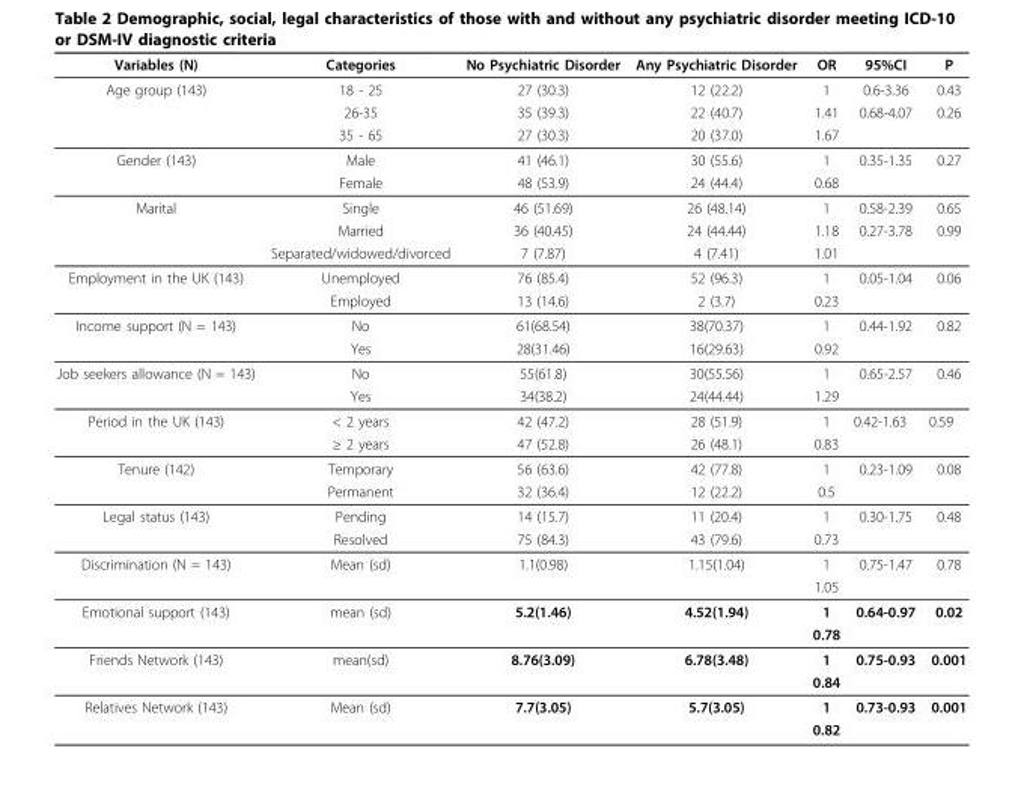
<table><thead><tr><td>Variables (N)</td><td>Categories</td><td>No Psychiatric Disorder</td><td>Any Psychiatric Disorder</td><td>OR</td><td>95%CI</td><td>P</td></tr></thead><tbody><tr><td rowspan="3">Age group (143)</td><td>18 - 25</td><td>27 (30.3)</td><td>12 (22.2)</td><td>1</td><td>0.6-3.36</td><td>0.43</td></tr><tr><td>26-35</td><td>35 (39.3)</td><td>22 (40.7)</td><td>1.41</td><td>0.68-4.07</td><td>0.26</td></tr><tr><td>35 - 65</td><td>27 (30.3)</td><td>20 (37.0)</td><td>1.67</td><td></td><td></td></tr><tr><td rowspan="2">Gender (143)</td><td>Male</td><td>41 (46.1)</td><td>30 (55.6)</td><td>1</td><td>0.35-1.35</td><td>0.27</td></tr><tr><td>Female</td><td>48 (53.9)</td><td>24 (44.4)</td><td>0.68</td><td></td><td></td></tr><tr><td rowspan="3">Marital</td><td>Single</td><td>46 (51.69)</td><td>26 (48.14)</td><td>1</td><td>0.58-2.39</td><td>0.65</td></tr><tr><td>Married</td><td>36 (40.45)</td><td>24 (44.44)</td><td>1.18</td><td>0.27-3.78</td><td>0.99</td></tr><tr><td>Separated/widowed/divorced</td><td>7 (7.87)</td><td>4 (7.41)</td><td>1.01</td><td></td><td></td></tr><tr><td rowspan="2">Employment in the UK (143)</td><td>Unemployed</td><td>76 (85.4)</td><td>52 (96.3)</td><td>1</td><td>0.05-1.04</td><td>0.06</td></tr><tr><td>Employed</td><td>13 (14.6)</td><td>2 (3.7)</td><td>0.23</td><td></td><td></td></tr><tr><td rowspan="2">Income support (N = 143)</td><td>No</td><td>61(68.54)</td><td>38(70.37)</td><td>1</td><td>0.44-1.92</td><td>0.82</td></tr><tr><td>Yes</td><td>28(31.46)</td><td>16(29.63)</td><td>0.92</td><td></td><td></td></tr><tr><td rowspan="2">Job seekers allowance (N = 143)</td><td>No</td><td>55(61.8)</td><td>30(55.56)</td><td>1</td><td>0.65-2.57</td><td>0.46</td></tr><tr><td>Yes</td><td>34(38.2)</td><td>24(44.44)</td><td>1.29</td><td></td><td></td></tr><tr><td rowspan="2">Period in the UK (143)</td><td>&lt; 2 years</td><td>42 (47.2)</td><td>28 (51.9)</td><td>1</td><td>0.42-1.63</td><td>0.59</td></tr><tr><td>≥ 2 years</td><td>47 (52.8)</td><td>26 (48.1)</td><td>0.83</td><td></td><td></td></tr><tr><td rowspan="2">Tenure (142)</td><td>Temporary</td><td>56 (63.6)</td><td>42 (77.8)</td><td>1</td><td>0.23-1.09</td><td>0.08</td></tr><tr><td>Permanent</td><td>32 (36.4)</td><td>12 (22.2)</td><td>0.5</td><td></td><td></td></tr><tr><td rowspan="2">Legal status (143)</td><td>Pending</td><td>14 (15.7)</td><td>11 (20.4)</td><td>1</td><td>0.30-1.75</td><td>0.48</td></tr><tr><td>Resolved</td><td>75 (84.3)</td><td>43 (79.6)</td><td>0.73</td><td></td><td></td></tr><tr><td rowspan="2">Discrimination (N = 143)</td><td>Mean (sd)</td><td>1.1(0.98)</td><td>1.15(1.04)</td><td>1</td><td>0.75-1.47</td><td>0.78</td></tr><tr><td></td><td></td><td></td><td>1.05</td><td></td><td></td></tr><tr><td rowspan="2">Emotional support (143)</td><td>mean (sd)</td><td>5.2(1.46)</td><td>4.52(1.94)</td><td>1</td><td>0.64-0.97</td><td>0.02</td></tr><tr><td></td><td></td><td></td><td>0.78</td><td></td><td></td></tr><tr><td rowspan="2">Friends Network (143)</td><td>mean(sd)</td><td>8.76(3.09)</td><td>6.78(3.48)</td><td>1</td><td>0.75-0.93</td><td>0.001</td></tr><tr><td></td><td></td><td></td><td>0.84</td><td></td><td></td></tr><tr><td rowspan="2">Relatives Network (143)</td><td>Mean (sd)</td><td>7.7(3.05)</td><td>5.7(3.05)</td><td>1</td><td>0.73-0.93</td><td>0.001</td></tr><tr><td></td><td></td><td></td><td>0.82</td><td></td><td></td></tr></tbody></table>